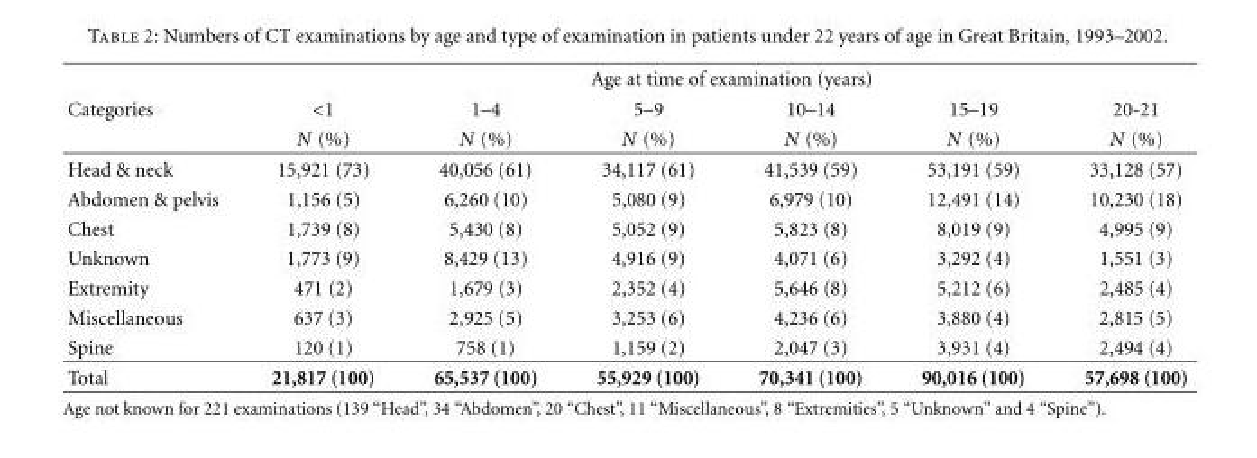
<table><thead><tr><td rowspan="3">Categories</td><td colspan="6">Age at time of examination (years)</td></tr><tr><td rowspan="2">&lt;1 N (%)</td><td rowspan="2">1–4 N (%)</td><td rowspan="2">5–9 N (%)</td><td rowspan="2">10–14 N (%)</td><td rowspan="2">15–19 N (%)</td><td rowspan="2">20-21 N (%)</td></tr><tr></tr></thead><tbody><tr><td>Head &amp; neck</td><td>15,921 (73)</td><td>40,056 (61)</td><td>34,117 (61)</td><td>41,539 (59)</td><td>53,191 (59)</td><td>33,128 (57)</td></tr><tr><td>Abdomen &amp; pelvis</td><td>1,156 (5)</td><td>6,260 (10)</td><td>5,080 (9)</td><td>6,979 (10)</td><td>12,491 (14)</td><td>10,230 (18)</td></tr><tr><td>Chest</td><td>1,739 (8)</td><td>5,430 (8)</td><td>5,052 (9)</td><td>5,823 (8)</td><td>8,019 (9)</td><td>4,995 (9)</td></tr><tr><td>Unknown</td><td>1,773 (9)</td><td>8,429 (13)</td><td>4,916 (9)</td><td>4,071 (6)</td><td>3,292 (4)</td><td>1,551 (3)</td></tr><tr><td>Extremity</td><td>471 (2)</td><td>1,679 (3)</td><td>2,352 (4)</td><td>5,646 (8)</td><td>5,212 (6)</td><td>2,485 (4)</td></tr><tr><td>Miscellaneous</td><td>637 (3)</td><td>2,925 (5)</td><td>3,253 (6)</td><td>4,236 (6)</td><td>3,880 (4)</td><td>2,815 (5)</td></tr><tr><td>Spine</td><td>120 (1)</td><td>758 (1)</td><td>1,159 (2)</td><td>2,047 (3)</td><td>3,931 (4)</td><td>2,494 (4)</td></tr><tr><td>Total</td><td>21,817 (100)</td><td>65,537 (100)</td><td>55,929 (100)</td><td>70,341 (100)</td><td>90,016 (100)</td><td>57,698 (100)</td></tr></tbody></table>